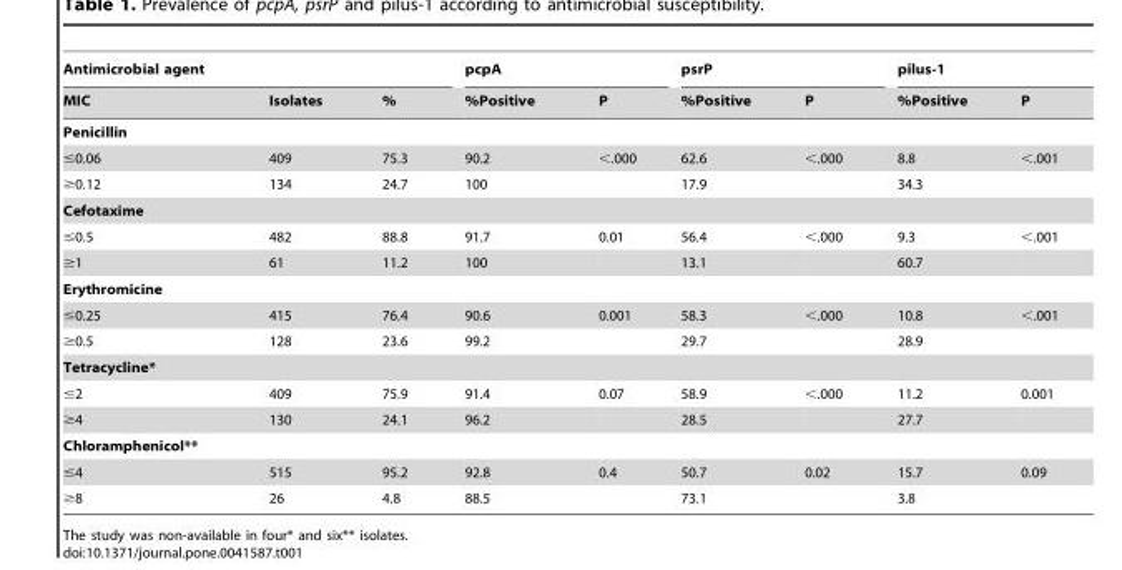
<table><thead><tr><td colspan="3">Antimicrobial agent</td><td colspan="2">pcpA</td><td colspan="2">psrP</td><td colspan="2">pilus-1</td></tr><tr><td>MIC</td><td>Isolates</td><td>%</td><td>%Positive</td><td>P</td><td>%Positive</td><td>P</td><td>%Positive</td><td>P</td></tr></thead><tbody><tr><td colspan="9">Penicillin</td></tr><tr><td>≤0.06</td><td>409</td><td>75.3</td><td>90.2</td><td>&lt;.000</td><td>62.6</td><td>&lt;.000</td><td>8.8</td><td>&lt;.001</td></tr><tr><td>≥0.12</td><td>134</td><td>24.7</td><td>100</td><td></td><td>17.9</td><td></td><td>34.3</td><td></td></tr><tr><td colspan="9">Cefotaxime</td></tr><tr><td>≤0.5</td><td>482</td><td>88.8</td><td>91.7</td><td>0.01</td><td>56.4</td><td>&lt;.000</td><td>9.3</td><td>&lt;.001</td></tr><tr><td>≥1</td><td>61</td><td>11.2</td><td>100</td><td></td><td>13.1</td><td></td><td>60.7</td><td></td></tr><tr><td colspan="9">Erythromicine</td></tr><tr><td>≤0.25</td><td>415</td><td>76.4</td><td>90.6</td><td>0.001</td><td>58.3</td><td>&lt;.000</td><td>10.8</td><td>&lt;.001</td></tr><tr><td>≥0.5</td><td>128</td><td>23.6</td><td>99.2</td><td></td><td>29.7</td><td></td><td>28.9</td><td></td></tr><tr><td colspan="9">Tetracycline*</td></tr><tr><td>≤2</td><td>409</td><td>75.9</td><td>91.4</td><td>0.07</td><td>58.9</td><td>&lt;.000</td><td>11.2</td><td>0.001</td></tr><tr><td>≥4</td><td>130</td><td>24.1</td><td>96.2</td><td></td><td>28.5</td><td></td><td>27.7</td><td></td></tr><tr><td colspan="9">Chloramphenicol**</td></tr><tr><td>≤4</td><td>515</td><td>95.2</td><td>92.8</td><td>0.4</td><td>50.7</td><td>0.02</td><td>15.7</td><td>0.09</td></tr><tr><td>≥8</td><td>26</td><td>4.8</td><td>88.5</td><td></td><td>73.1</td><td></td><td>3.8</td><td></td></tr></tbody></table>